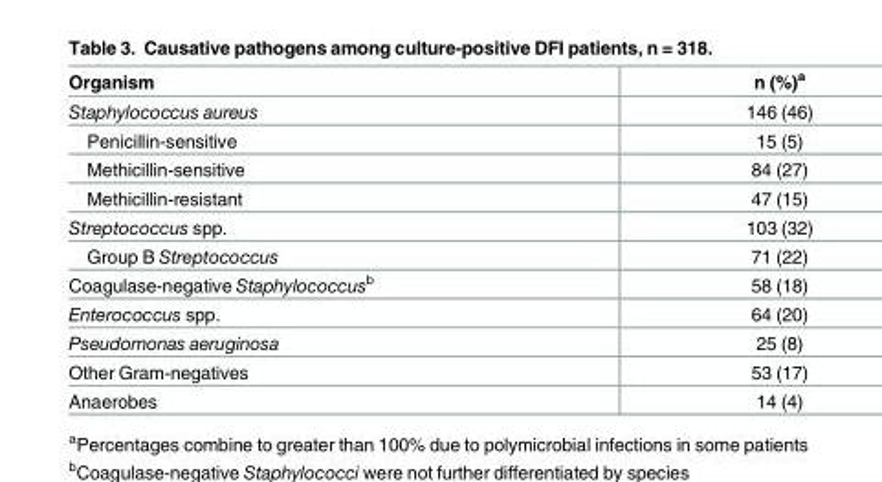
<table><thead><tr><td>Organism</td><td>n (%)<sup>a</sup></td></tr></thead><tbody><tr><td>Staphylococcus aureus</td><td>146 (46)</td></tr><tr><td>Penicillin-sensitive</td><td>15 (5)</td></tr><tr><td>Methicillin-sensitive</td><td>84 (27)</td></tr><tr><td>Methicillin-resistant</td><td>47 (15)</td></tr><tr><td>Streptococcus spp.</td><td>103 (32)</td></tr><tr><td>Group B Streptococcus</td><td>71 (22)</td></tr><tr><td>Coagulase-negative Staphylococcus<sup>b</sup></td><td>58 (18)</td></tr><tr><td>Enterococcus spp.</td><td>64 (20)</td></tr><tr><td>Pseudomonas aeruginosa</td><td>25 (8)</td></tr><tr><td>Other Gram-negatives</td><td>53 (17)</td></tr><tr><td>Anaerobes</td><td>14 (4)</td></tr></tbody></table>